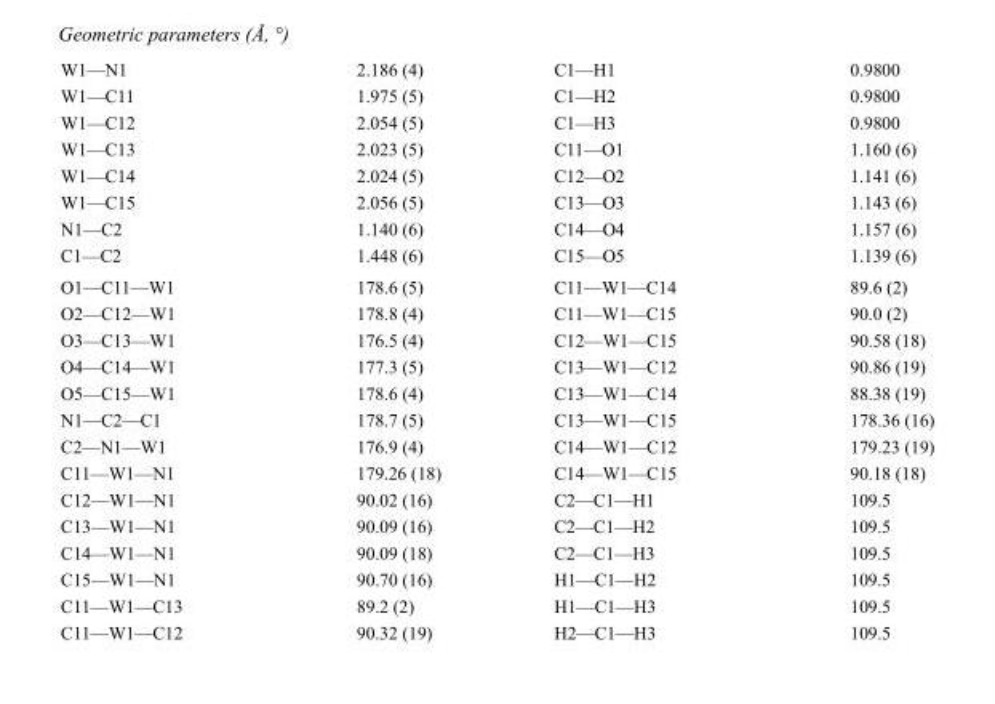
<table><tbody><tr><td>W1—N1</td><td>2.186 (4)</td><td>C1—H1</td><td>0.9800</td></tr><tr><td>W1—C11</td><td>1.975 (5)</td><td>C1—H2</td><td>0.9800</td></tr><tr><td>W1—C12</td><td>2.054 (5)</td><td>C1—H3</td><td>0.9800</td></tr><tr><td>W1—C13</td><td>2.023 (5)</td><td>C11—O1</td><td>1.160 (6)</td></tr><tr><td>W1—C14</td><td>2.024 (5)</td><td>C12—O2</td><td>1.141 (6)</td></tr><tr><td>W1—C15</td><td>2.056 (5)</td><td>C13—O3</td><td>1.143 (6)</td></tr><tr><td>N1—C2</td><td>1.140 (6)</td><td>C14—O4</td><td>1.157 (6)</td></tr><tr><td>C1—C2</td><td>1.448 (6)</td><td>C15—O5</td><td>1.139 (6)</td></tr><tr><td>O1—C11—W1</td><td>178.6 (5)</td><td>C11—W1—C14</td><td>89.6 (2)</td></tr><tr><td>O2—C12—W1</td><td>178.8 (4)</td><td>C11—W1—C15</td><td>90.0 (2)</td></tr><tr><td>O3—C13—W1</td><td>176.5 (4)</td><td>C12—W1—C15</td><td>90.58 (18)</td></tr><tr><td>O4—C14—W1</td><td>177.3 (5)</td><td>C13—W1—C12</td><td>90.86 (19)</td></tr><tr><td>O5—C15—W1</td><td>178.6 (4)</td><td>C13—W1—C14</td><td>88.38 (19)</td></tr><tr><td>N1—C2—C1</td><td>178.7 (5)</td><td>C13—W1—C15</td><td>178.36 (16)</td></tr><tr><td>C2—N1—W1</td><td>176.9 (4)</td><td>C14—W1—C12</td><td>179.23 (19)</td></tr><tr><td>C11—W1—N1</td><td>179.26 (18)</td><td>C14—W1—C15</td><td>90.18 (18)</td></tr><tr><td>C12—W1—N1</td><td>90.02 (16)</td><td>C2—C1—H1</td><td>109.5</td></tr><tr><td>C13—W1—N1</td><td>90.09 (16)</td><td>C2—C1—H2</td><td>109.5</td></tr><tr><td>C14—W1—N1</td><td>90.09 (18)</td><td>C2—C1—H3</td><td>109.5</td></tr><tr><td>C15—W1—N1</td><td>90.70 (16)</td><td>H1—C1—H2</td><td>109.5</td></tr><tr><td>C11—W1—C13</td><td>89.2 (2)</td><td>H1—C1—H3</td><td>109.5</td></tr><tr><td>C11—W1—C12</td><td>90.32 (19)</td><td>H2—C1—H3</td><td>109.5</td></tr></tbody></table>